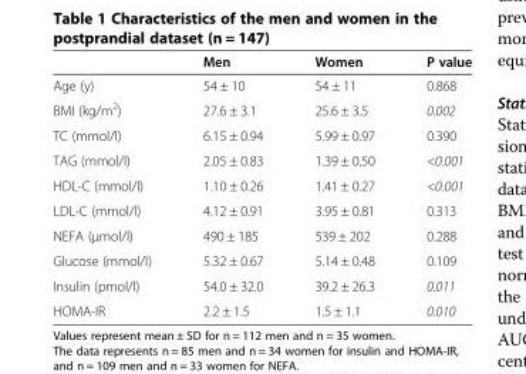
<table><thead><tr><td></td><td>Men</td><td>Women</td><td>P value</td></tr></thead><tbody><tr><td>Age (y)</td><td>54 ± 10</td><td>54 ± 11</td><td>0.868</td></tr><tr><td>BMI (kg/m<sup>2</sup>)</td><td>27.6 ± 3.1</td><td>25.6 ± 3.5</td><td>0.002</td></tr><tr><td>TC (mmol/l)</td><td>6.15 ± 0.94</td><td>5.99 ± 0.97</td><td>0.390</td></tr><tr><td>TAG (mmol/l)</td><td>2.05 ± 0.83</td><td>1.39 ± 0.50</td><td>&lt;0.001</td></tr><tr><td>HDL-C (mmol/l)</td><td>1.10 ± 0.26</td><td>1.41 ± 0.27</td><td>&lt;0.001</td></tr><tr><td>LDL-C (mmol/l)</td><td>4.12 ± 0.91</td><td>3.95 ± 0.81</td><td>0.313</td></tr><tr><td>NEFA (μmol/l)</td><td>490 ± 185</td><td>539 ± 202</td><td>0.288</td></tr><tr><td>Glucose (mmol/l)</td><td>5.32 ± 0.67</td><td>5.14 ± 0.48</td><td>0.109</td></tr><tr><td>Insulin (pmol/l)</td><td>54.0 ± 32.0</td><td>39.2 ± 26.3</td><td>0.011</td></tr><tr><td>HOMA-IR</td><td>2.2 ± 1.5</td><td>1.5 ± 1.1</td><td>0.010</td></tr></tbody></table>